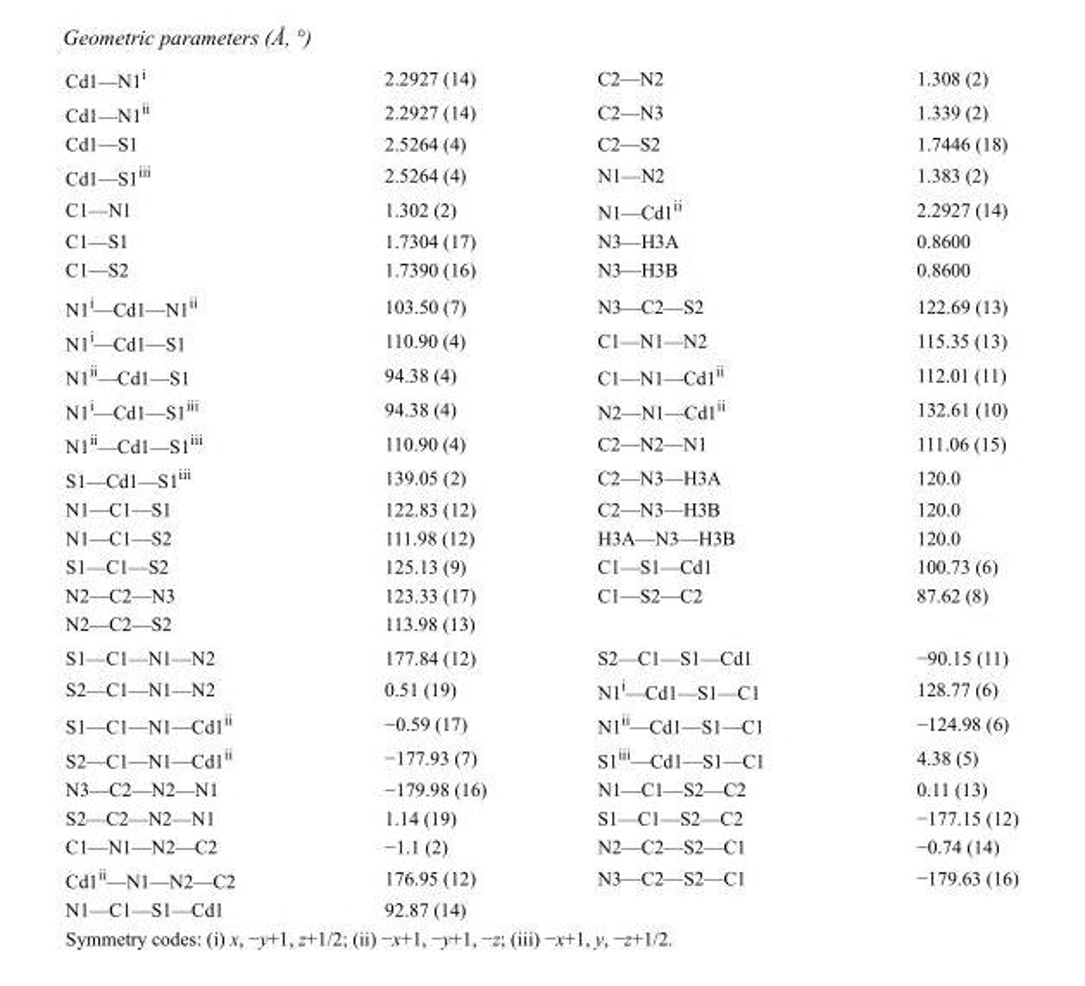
<table><tbody><tr><td>Cd1—N1<sup>i</sup></td><td>2.2927 (14)</td><td>C2—N2</td><td>1.308 (2)</td></tr><tr><td>Cd1—N1<sup>ii</sup></td><td>2.2927 (14)</td><td>C2—N3</td><td>1.339 (2)</td></tr><tr><td>Cd1—S1</td><td>2.5264 (4)</td><td>C2—S2</td><td>1.7446 (18)</td></tr><tr><td>Cd1—S1<sup>iii</sup></td><td>2.5264 (4)</td><td>N1—N2</td><td>1.383 (2)</td></tr><tr><td>C1—N1</td><td>1.302 (2)</td><td>N1—Cd1<sup>ii</sup></td><td>2.2927 (14)</td></tr><tr><td>C1—S1</td><td>1.7304 (17)</td><td>N3—H3A</td><td>0.8600</td></tr><tr><td>C1—S2</td><td>1.7390 (16)</td><td>N3—H3B</td><td>0.8600</td></tr><tr><td>N1<sup>i</sup>—Cd1—N1<sup>ii</sup></td><td>103.50 (7)</td><td>N3—C2—S2</td><td>122.69 (13)</td></tr><tr><td>N1<sup>i</sup>—Cd1—S1</td><td>110.90 (4)</td><td>C1—N1—N2</td><td>115.35 (13)</td></tr><tr><td>N1<sup>ii</sup>—Cd1—S1</td><td>94.38 (4)</td><td>C1—N1—Cd1<sup>ii</sup></td><td>112.01 (11)</td></tr><tr><td>N1<sup>i</sup>—Cd1—S1<sup>iii</sup></td><td>94.38 (4)</td><td>N2—N1—Cd1<sup>ii</sup></td><td>132.61 (10)</td></tr><tr><td>N1<sup>ii</sup>—Cd1—S1<sup>iii</sup></td><td>110.90 (4)</td><td>C2—N2—N1</td><td>111.06 (15)</td></tr><tr><td>S1—Cd1—S1<sup>iii</sup></td><td>139.05 (2)</td><td>C2—N3—H3A</td><td>120.0</td></tr><tr><td>N1—C1—S1</td><td>122.83 (12)</td><td>C2—N3—H3B</td><td>120.0</td></tr><tr><td>N1—C1—S2</td><td>111.98 (12)</td><td>H3A—N3—H3B</td><td>120.0</td></tr><tr><td>S1—C1—S2</td><td>125.13 (9)</td><td>C1—S1—Cd1</td><td>100.73 (6)</td></tr><tr><td>N2—C2—N3</td><td>123.33 (17)</td><td>C1—S2—C2</td><td>87.62 (8)</td></tr><tr><td>N2—C2—S2</td><td>113.98 (13)</td><td></td><td></td></tr><tr><td>S1—C1—N1—N2</td><td>177.84 (12)</td><td>S2—C1—S1—Cd1</td><td>−90.15 (11)</td></tr><tr><td>S2—C1—N1—N2</td><td>0.51 (19)</td><td>N1<sup>i</sup>—Cd1—S1—C1</td><td>128.77 (6)</td></tr><tr><td>S1—C1—N1—Cd1<sup>ii</sup></td><td>−0.59 (17)</td><td>N1<sup>ii</sup>—Cd1—S1—C1</td><td>−124.98 (6)</td></tr><tr><td>S2—C1—N1—Cd1<sup>ii</sup></td><td>−177.93 (7)</td><td>S1<sup>iii</sup>—Cd1—S1—C1</td><td>4.38 (5)</td></tr><tr><td>N3—C2—N2—N1</td><td>−179.98 (16)</td><td>N1—C1—S2—C2</td><td>0.11 (13)</td></tr><tr><td>S2—C2—N2—N1</td><td>1.14 (19)</td><td>S1—C1—S2—C2</td><td>−177.15 (12)</td></tr><tr><td>C1—N1—N2—C2</td><td>−1.1 (2)</td><td>N2—C2—S2—C1</td><td>−0.74 (14)</td></tr><tr><td>Cd1<sup>ii</sup>—N1—N2—C2</td><td>176.95 (12)</td><td>N3—C2—S2—C1</td><td>−179.63 (16)</td></tr><tr><td>N1—C1—S1—Cd1</td><td>92.87 (14)</td><td></td><td></td></tr></tbody></table>